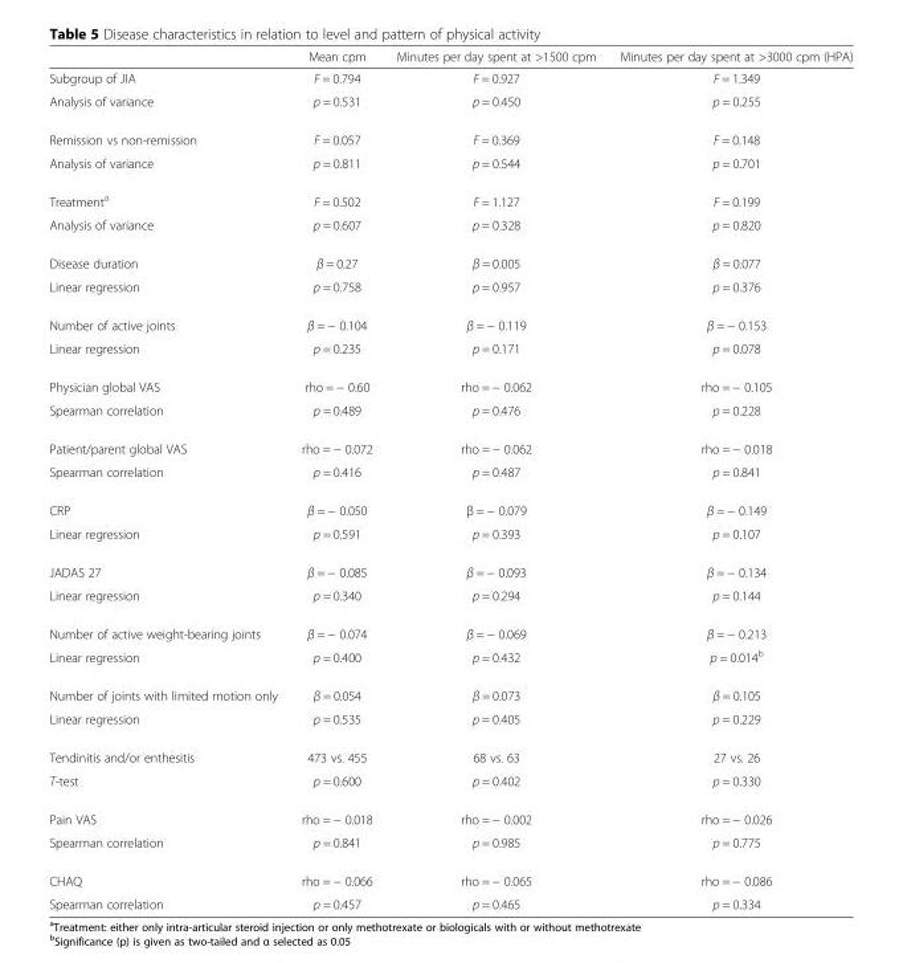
<table><thead><tr><td></td><td>Mean cpm</td><td>Minutes per day spent at &gt;1500 cpm</td><td>Minutes per day spent at &gt;3000 cpm (HPA)</td></tr></thead><tbody><tr><td>Subgroup of JIA</td><td>F = 0.794</td><td>F = 0.927</td><td>F = 1.349</td></tr><tr><td>Analysis of variance</td><td>p = 0.531</td><td>p = 0.450</td><td>p = 0.255</td></tr><tr><td>Remission vs non-remission</td><td>F = 0.057</td><td>F = 0.369</td><td>F = 0.148</td></tr><tr><td>Analysis of variance</td><td>p = 0.811</td><td>p = 0.544</td><td>p = 0.701</td></tr><tr><td>Treatment<sup>a</sup></td><td>F = 0.502</td><td>F = 1.127</td><td>F = 0.199</td></tr><tr><td>Analysis of variance</td><td>p = 0.607</td><td>p = 0.328</td><td>p = 0.820</td></tr><tr><td>Disease duration</td><td>β = 0.27</td><td>β = 0.005</td><td>β = 0.077</td></tr><tr><td>Linear regression</td><td>p = 0.758</td><td>p = 0.957</td><td>p = 0.376</td></tr><tr><td>Number of active joints</td><td>β = − 0.104</td><td>β = − 0.119</td><td>β = − 0.153</td></tr><tr><td>Linear regression</td><td>p = 0.235</td><td>p = 0.171</td><td>p = 0.078</td></tr><tr><td>Physician global VAS</td><td>rho = − 0.60</td><td>rho = − 0.062</td><td>rho = − 0.105</td></tr><tr><td>Spearman correlation</td><td>p = 0.489</td><td>p = 0.476</td><td>p = 0.228</td></tr><tr><td>Patient/parent global VAS</td><td>rho = − 0.072</td><td>rho = − 0.062</td><td>rho = − 0.018</td></tr><tr><td>Spearman correlation</td><td>p = 0.416</td><td>p = 0.487</td><td>p = 0.841</td></tr><tr><td>CRP</td><td>β = − 0.050</td><td>β = − 0.079</td><td>β = − 0.149</td></tr><tr><td>Linear regression</td><td>p = 0.591</td><td>p = 0.393</td><td>p = 0.107</td></tr><tr><td>JADAS 27</td><td>β = − 0.085</td><td>β = − 0.093</td><td>β = − 0.134</td></tr><tr><td>Linear regression</td><td>p = 0.340</td><td>p = 0.294</td><td>p = 0.144</td></tr><tr><td>Number of active weight-bearing joints</td><td>β = − 0.074</td><td>β = − 0.069</td><td>β = − 0.213</td></tr><tr><td>Linear regression</td><td>p = 0.400</td><td>p = 0.432</td><td>p = 0.014<sup>b</sup></td></tr><tr><td>Number of joints with limited motion only</td><td>β = 0.054</td><td>β = 0.073</td><td>β = 0.105</td></tr><tr><td>Linear regression</td><td>p = 0.535</td><td>p = 0.405</td><td>p = 0.229</td></tr><tr><td>Tendinitis and/or enthesitis</td><td>473 vs. 455</td><td>68 vs. 63</td><td>27 vs. 26</td></tr><tr><td>T-test</td><td>p = 0.600</td><td>p = 0.402</td><td>p = 0.330</td></tr><tr><td>Pain VAS</td><td>rho = − 0.018</td><td>rho = − 0.002</td><td>rho = − 0.026</td></tr><tr><td>Spearman correlation</td><td>p = 0.841</td><td>p = 0.985</td><td>p = 0.775</td></tr><tr><td>CHAQ</td><td>rho = − 0.066</td><td>rho = − 0.065</td><td>rho = − 0.086</td></tr><tr><td>Spearman correlation</td><td>p = 0.457</td><td>p = 0.465</td><td>p = 0.334</td></tr></tbody></table>